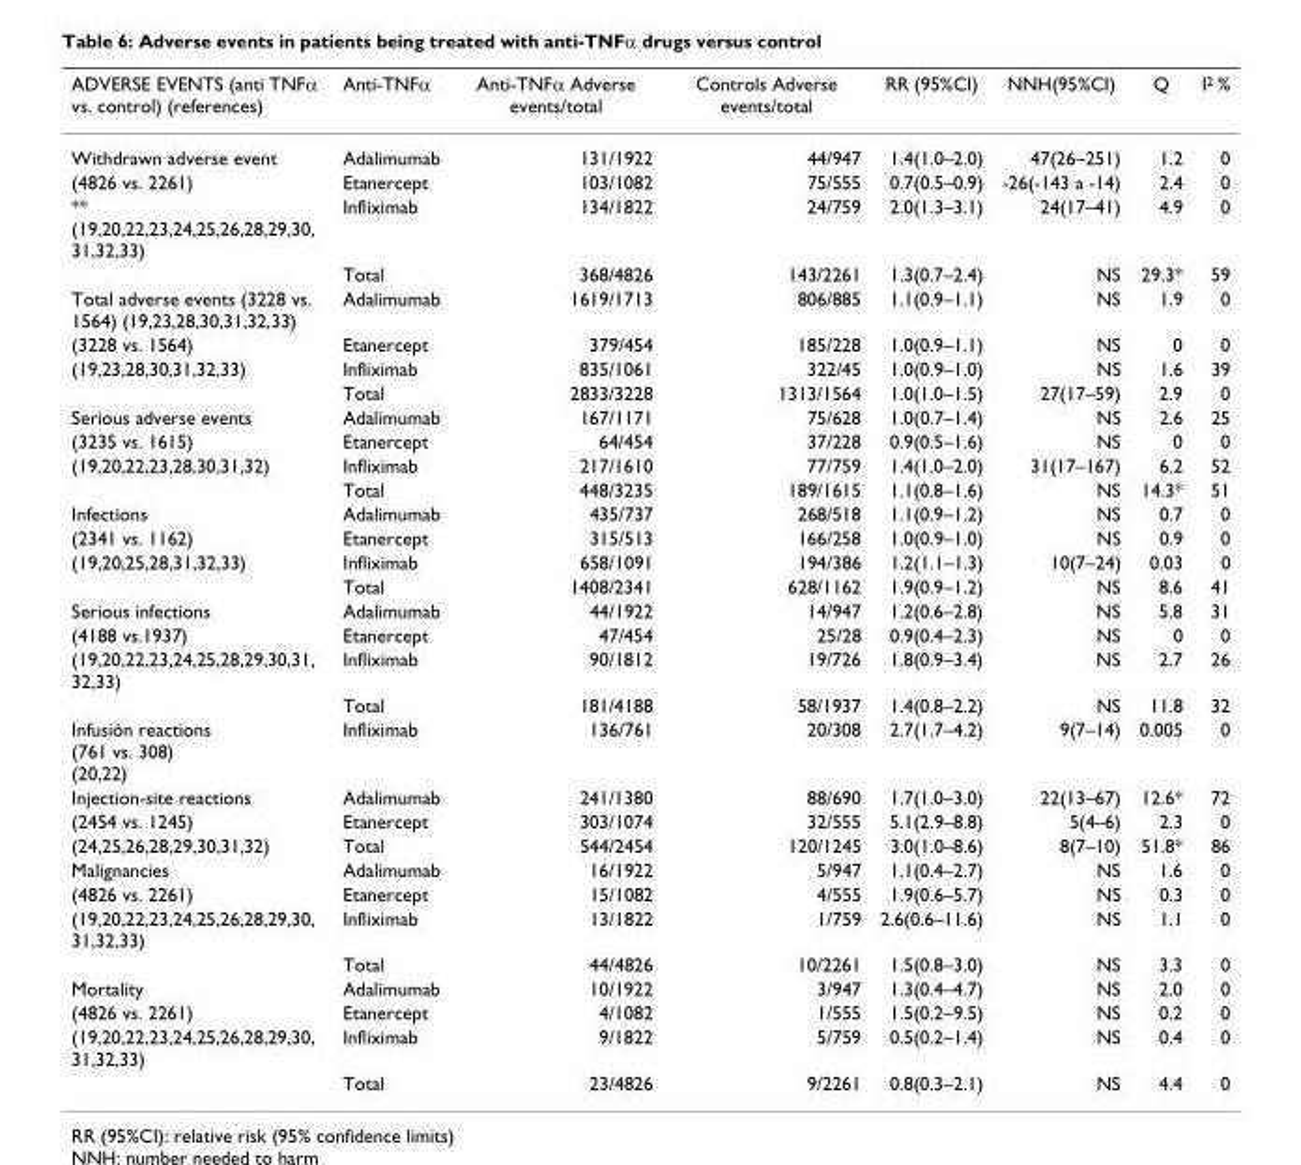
<table><thead><tr><td>ADVERSE EVENTS (anti TNFα vs. control) (references)</td><td>Anti-TNFα</td><td>Anti-TNFα Adverse events/total</td><td>Controls Adverse events/total</td><td>RR (95%CI)</td><td>NNH(95%CI)</td><td>Q</td><td>I<sup>2</sup> %</td></tr></thead><tbody><tr><td>Withdrawn adverse event</td><td>Adalimumab</td><td>131/1922</td><td>44/947</td><td>1.4(1.0–2.0)</td><td>47(26–251)</td><td>1.2</td><td>0</td></tr><tr><td>(4826 vs. 2261)</td><td>Etanercept</td><td>103/1082</td><td>75/555</td><td>0.7(0.5–0.9)</td><td>-26(-143 a -14)</td><td>2.4</td><td>0</td></tr><tr><td rowspan="2">** (19,20,22,23,24,25,26,28,29,30, 31,32,33)</td><td>Infliximab</td><td>134/1822</td><td>24/759</td><td>2.0(1.3–3.1)</td><td>24(17–41)</td><td>4.9</td><td>0</td></tr><tr><td>Total</td><td>368/4826</td><td>143/2261</td><td>1.3(0.7–2.4)</td><td>NS</td><td>29.3*</td><td>59</td></tr><tr><td>Total adverse events (3228 vs. 1564) (19,23,28,30,31,32,33)</td><td>Adalimumab</td><td>1619/1713</td><td>806/885</td><td>1.1(0.9–1.1)</td><td>NS</td><td>1.9</td><td>0</td></tr><tr><td>(3228 vs. 1564)</td><td>Etanercept</td><td>379/454</td><td>185/228</td><td>1.0(0.9–1.1)</td><td>NS</td><td>0</td><td>0</td></tr><tr><td rowspan="2">(19,23,28,30,31,32,33)</td><td>Infliximab</td><td>835/1061</td><td>322/45</td><td>1.0(0.9–1.0)</td><td>NS</td><td>1.6</td><td>39</td></tr><tr><td>Total</td><td>2833/3228</td><td>1313/1564</td><td>1.0(1.0–1.5)</td><td>27(17–59)</td><td>2.9</td><td>0</td></tr><tr><td>Serious adverse events</td><td>Adalimumab</td><td>167/1171</td><td>75/628</td><td>1.0(0.7–1.4)</td><td>NS</td><td>2.6</td><td>25</td></tr><tr><td>(3235 vs. 1615)</td><td>Etanercept</td><td>64/454</td><td>37/228</td><td>0.9(0.5–1.6)</td><td>NS</td><td>0</td><td>0</td></tr><tr><td rowspan="2">(19,20,22,23,28,30,31,32)</td><td>Infliximab</td><td>217/1610</td><td>77/759</td><td>1.4(1.0–2.0)</td><td>31(17–167)</td><td>6.2</td><td>52</td></tr><tr><td>Total</td><td>448/3235</td><td>189/1615</td><td>1.1(0.8–1.6)</td><td>NS</td><td>14.3*</td><td>51</td></tr><tr><td>Infections</td><td>Adalimumab</td><td>435/737</td><td>268/518</td><td>1.1(0.9–1.2)</td><td>NS</td><td>0.7</td><td>0</td></tr><tr><td>(2341 vs. 1162)</td><td>Etanercept</td><td>315/513</td><td>166/258</td><td>1.0(0.9–1.0)</td><td>NS</td><td>0.9</td><td>0</td></tr><tr><td rowspan="2">(19,20,25,28,31,32,33)</td><td>Infliximab</td><td>658/1091</td><td>194/386</td><td>1.2(1.1–1.3)</td><td>10(7–24)</td><td>0.03</td><td>0</td></tr><tr><td>Total</td><td>1408/2341</td><td>628/1162</td><td>1.9(0.9–1.2)</td><td>NS</td><td>8.6</td><td>41</td></tr><tr><td>Serious infections</td><td>Adalimumab</td><td>44/1922</td><td>14/947</td><td>1.2(0.6–2.8)</td><td>NS</td><td>5.8</td><td>31</td></tr><tr><td>(4188 vs.1937)</td><td>Etanercept</td><td>47/454</td><td>25/28</td><td>0.9(0.4–2.3)</td><td>NS</td><td>0</td><td>0</td></tr><tr><td rowspan="2">(19,20,22,23,24,25,28,29,30,31, 32,33)</td><td>Infliximab</td><td>90/1812</td><td>19/726</td><td>1.8(0.9–3.4)</td><td>NS</td><td>2.7</td><td>26</td></tr><tr><td>Total</td><td>181/4188</td><td>58/1937</td><td>1.4(0.8–2.2)</td><td>NS</td><td>11.8</td><td>32</td></tr><tr><td>Infusión reactions (761 vs. 308) (20,22)</td><td>Infliximab</td><td>136/761</td><td>20/308</td><td>2.7(1.7–4.2)</td><td>9(7–14)</td><td>0.005</td><td>0</td></tr><tr><td>Injection-site reactions</td><td>Adalimumab</td><td>241/1380</td><td>88/690</td><td>1.7(1.0–3.0)</td><td>22(13–67)</td><td>12.6*</td><td>72</td></tr><tr><td>(2454 vs. 1245)</td><td>Etanercept</td><td>303/1074</td><td>32/555</td><td>5.1(2.9–8.8)</td><td>5(4–6)</td><td>2.3</td><td>0</td></tr><tr><td>(24,25,26,28,29,30,31,32)</td><td>Total</td><td>544/2454</td><td>120/1245</td><td>3.0(1.0–8.6)</td><td>8(7–10)</td><td>51.8*</td><td>86</td></tr><tr><td>Malignancies</td><td>Adalimumab</td><td>16/1922</td><td>5/947</td><td>1.1(0.4–2.7)</td><td>NS</td><td>1.6</td><td>0</td></tr><tr><td>(4826 vs. 2261)</td><td>Etanercept</td><td>15/1082</td><td>4/555</td><td>1.9(0.6–5.7)</td><td>NS</td><td>0.3</td><td>0</td></tr><tr><td rowspan="2">(19,20,22,23,24,25,26,28,29,30, 31,32,33)</td><td>Infliximab</td><td>13/1822</td><td>1/759</td><td>2.6(0.6–11.6)</td><td>NS</td><td>1.1</td><td>0</td></tr><tr><td>Total</td><td>44/4826</td><td>10/2261</td><td>1.5(0.8–3.0)</td><td>NS</td><td>3.3</td><td>0</td></tr><tr><td>Mortality</td><td>Adalimumab</td><td>10/1922</td><td>3/947</td><td>1.3(0.4–4.7)</td><td>NS</td><td>2.0</td><td>0</td></tr><tr><td>(4826 vs. 2261)</td><td>Etanercept</td><td>4/1082</td><td>1/555</td><td>1.5(0.2–9.5)</td><td>NS</td><td>0.2</td><td>0</td></tr><tr><td rowspan="2">(19,20,22,23,24,25,26,28,29,30, 31,32,33)</td><td>Infliximab</td><td>9/1822</td><td>5/759</td><td>0.5(0.2–1.4)</td><td>NS</td><td>0.4</td><td>0</td></tr><tr><td>Total</td><td>23/4826</td><td>9/2261</td><td>0.8(0.3–2.1)</td><td>NS</td><td>4.4</td><td>0</td></tr></tbody></table>